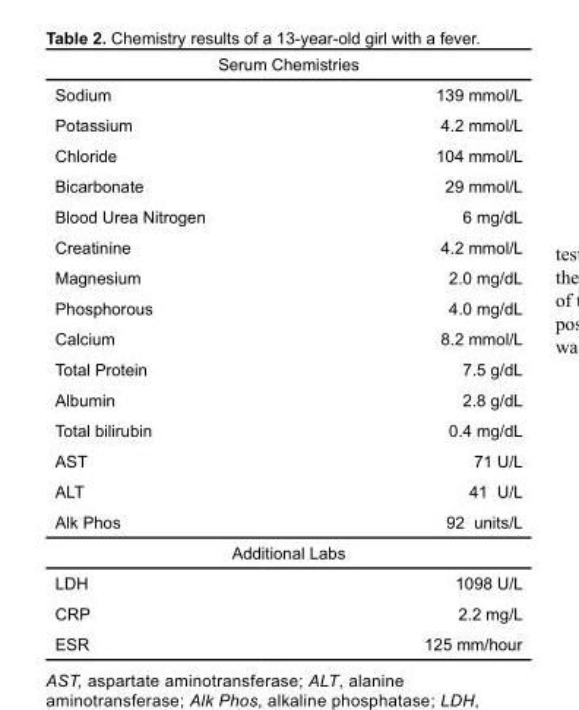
<table><thead><tr><td colspan="2">Serum Chemistries</td></tr><tr><td>Sodium</td><td>139 mmol/L</td></tr></thead><tbody><tr><td>Potassium</td><td>4.2 mmol/L</td></tr><tr><td>Chloride</td><td>104 mmol/L</td></tr><tr><td>Bicarbonate</td><td>29 mmol/L</td></tr><tr><td>Blood Urea Nitrogen</td><td>6 mg/dL</td></tr><tr><td>Creatinine</td><td>4.2 mmol/L</td></tr><tr><td>Magnesium</td><td>2.0 mg/dL</td></tr><tr><td>Phosphorous</td><td>4.0 mg/dL</td></tr><tr><td>Calcium</td><td>8.2 mmol/L</td></tr><tr><td>Total Protein</td><td>7.5 g/dL</td></tr><tr><td>Albumin</td><td>2.8 g/dL</td></tr><tr><td>Total bilirubin</td><td>0.4 mg/dL</td></tr><tr><td>AST</td><td>71 U/L</td></tr><tr><td>ALT</td><td>41 U/L</td></tr><tr><td>Alk Phos</td><td>92 units/L</td></tr><tr><td colspan="2">Additional Labs</td></tr><tr><td>LDH</td><td>1098 U/L</td></tr><tr><td>CRP</td><td>2.2 mg/L</td></tr><tr><td>ESR</td><td>125 mm/hour</td></tr></tbody></table>